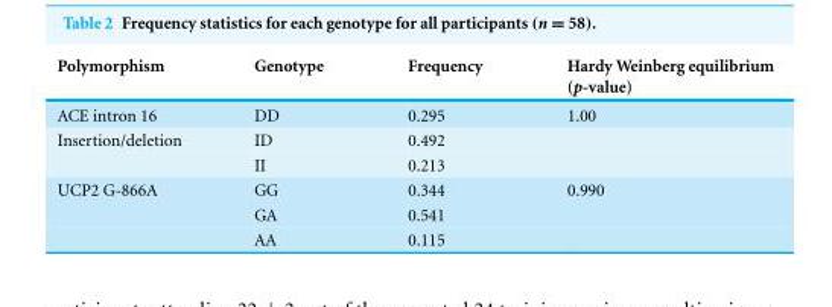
<table><thead><tr><td>Polymorphism</td><td>Genotype</td><td>Frequency</td><td>Hardy Weinberg equilibrium (p-value)</td></tr></thead><tbody><tr><td>ACE intron 16</td><td>DD</td><td>0.295</td><td>1.00</td></tr><tr><td rowspan="2">Insertion/deletion</td><td>ID</td><td>0.492</td><td></td></tr><tr><td>II</td><td>0.213</td><td></td></tr><tr><td rowspan="3">UCP2 G-866A</td><td>GG</td><td>0.344</td><td>0.990</td></tr><tr><td>GA</td><td>0.541</td><td></td></tr><tr><td>AA</td><td>0.115</td><td></td></tr></tbody></table>